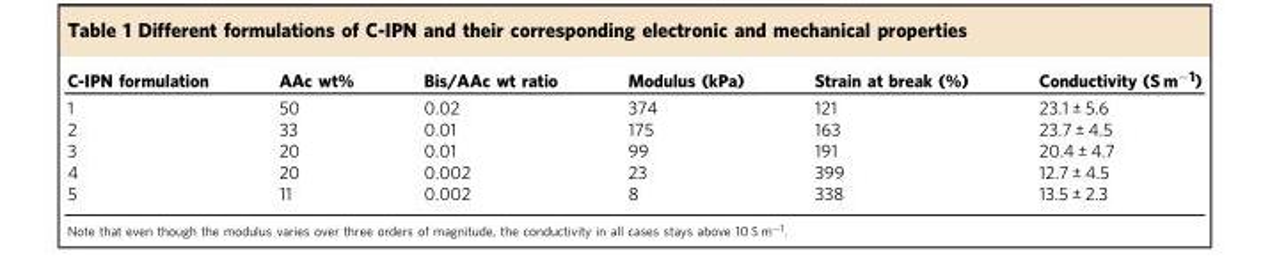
<table><thead><tr><td>C-IPN formulation</td><td>AAc wt%</td><td>Bis/AAc wt ratio</td><td>Modulus (kPa)</td><td>Strain at break (%)</td><td>Conductivity (S m<sup>−1</sup>)</td></tr></thead><tbody><tr><td>1</td><td>50</td><td>0.02</td><td>374</td><td>121</td><td>23.1 ± 5.6</td></tr><tr><td>2</td><td>33</td><td>0.01</td><td>175</td><td>163</td><td>23.7 ± 4.5</td></tr><tr><td>3</td><td>20</td><td>0.01</td><td>99</td><td>191</td><td>20.4 ± 4.7</td></tr><tr><td>4</td><td>20</td><td>0.002</td><td>23</td><td>399</td><td>12.7 ± 4.5</td></tr><tr><td>5</td><td>11</td><td>0.002</td><td>8</td><td>338</td><td>13.5 ± 2.3</td></tr></tbody></table>